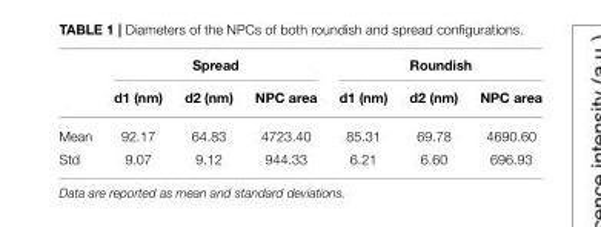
<table><thead><tr><td rowspan="2"></td><td colspan="3">Spread</td><td colspan="3">Roundish</td></tr><tr><td>d1 (nm)</td><td>d2 (nm)</td><td>NPC area</td><td>d1 (nm)</td><td>d2 (nm)</td><td>NPC area</td></tr></thead><tbody><tr><td>Mean</td><td>92.17</td><td>64.83</td><td>4723.40</td><td>85.31</td><td>69.78</td><td>4690.60</td></tr><tr><td>Std</td><td>9.07</td><td>9.12</td><td>944.33</td><td>6.21</td><td>6.60</td><td>696.93</td></tr></tbody></table>